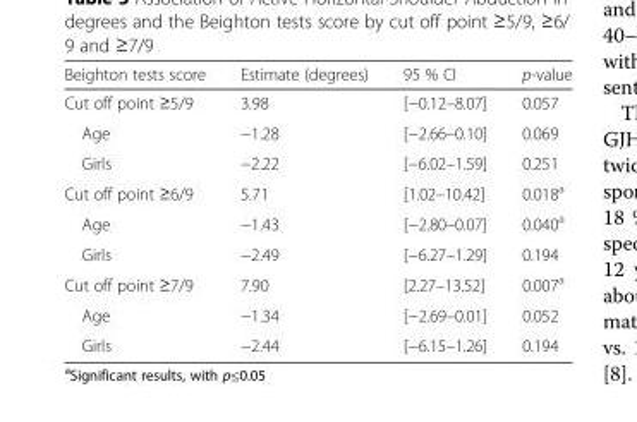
<table><thead><tr><td>Beighton tests score</td><td>Estimate (degrees)</td><td>95 % CI</td><td>p-value</td></tr></thead><tbody><tr><td>Cut off point ≥5/9</td><td>3.98</td><td>[−0.12–8.07]</td><td>0.057</td></tr><tr><td>Age</td><td>−1.28</td><td>[−2.66–0.10]</td><td>0.069</td></tr><tr><td>Girls</td><td>−2.22</td><td>[−6.02–1.59]</td><td>0.251</td></tr><tr><td>Cut off point ≥6/9</td><td>5.71</td><td>[1.02–10.42]</td><td>0.018<sup>a</sup></td></tr><tr><td>Age</td><td>−1.43</td><td>[−2.80–0.07]</td><td>0.040<sup>a</sup></td></tr><tr><td>Girls</td><td>−2.49</td><td>[−6.27–1.29]</td><td>0.194</td></tr><tr><td>Cut off point ≥7/9</td><td>7.90</td><td>[2.27–13.52]</td><td>0.007<sup>a</sup></td></tr><tr><td>Age</td><td>−1.34</td><td>[−2.69–0.01]</td><td>0.052</td></tr><tr><td>Girls</td><td>−2.44</td><td>[−6.15–1.26]</td><td>0.194</td></tr></tbody></table>